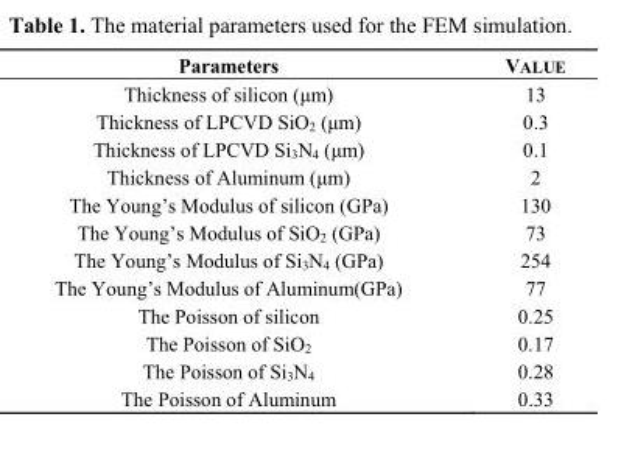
<table><thead><tr><td>Parameters</td><td>VALUE</td></tr></thead><tbody><tr><td>Thickness of silicon (μm)</td><td>13</td></tr><tr><td>Thickness of LPCVD SiO<sub>2</sub> (μm)</td><td>0.3</td></tr><tr><td>Thickness of LPCVD Si<sub>3</sub>N<sub>4</sub> (μm)</td><td>0.1</td></tr><tr><td>Thickness of Aluminum (μm)</td><td>2</td></tr><tr><td>The Young’s Modulus of silicon (GPa)</td><td>130</td></tr><tr><td>The Young’s Modulus of SiO<sub>2</sub> (GPa)</td><td>73</td></tr><tr><td>The Young’s Modulus of Si<sub>3</sub>N<sub>4</sub> (GPa)</td><td>254</td></tr><tr><td>The Young’s Modulus of Aluminum(GPa)</td><td>77</td></tr><tr><td>The Poisson of silicon</td><td>0.25</td></tr><tr><td>The Poisson of SiO<sub>2</sub></td><td>0.17</td></tr><tr><td>The Poisson of Si<sub>3</sub>N<sub>4</sub></td><td>0.28</td></tr><tr><td>The Poisson of Aluminum</td><td>0.33</td></tr></tbody></table>